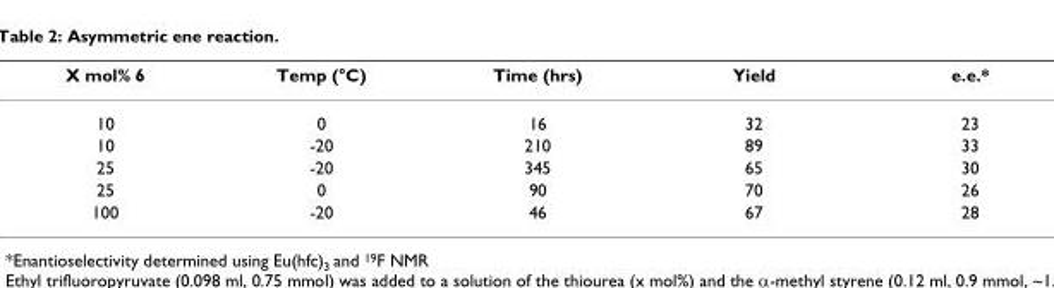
<table><thead><tr><td>X mol% 6</td><td>Temp (°C)</td><td>Time (hrs)</td><td>Yield</td><td>e.e.*</td></tr></thead><tbody><tr><td>10</td><td>0</td><td>16</td><td>32</td><td>23</td></tr><tr><td>10</td><td>-20</td><td>210</td><td>89</td><td>33</td></tr><tr><td>25</td><td>-20</td><td>345</td><td>65</td><td>30</td></tr><tr><td>25</td><td>0</td><td>90</td><td>70</td><td>26</td></tr><tr><td>100</td><td>-20</td><td>46</td><td>67</td><td>28</td></tr></tbody></table>